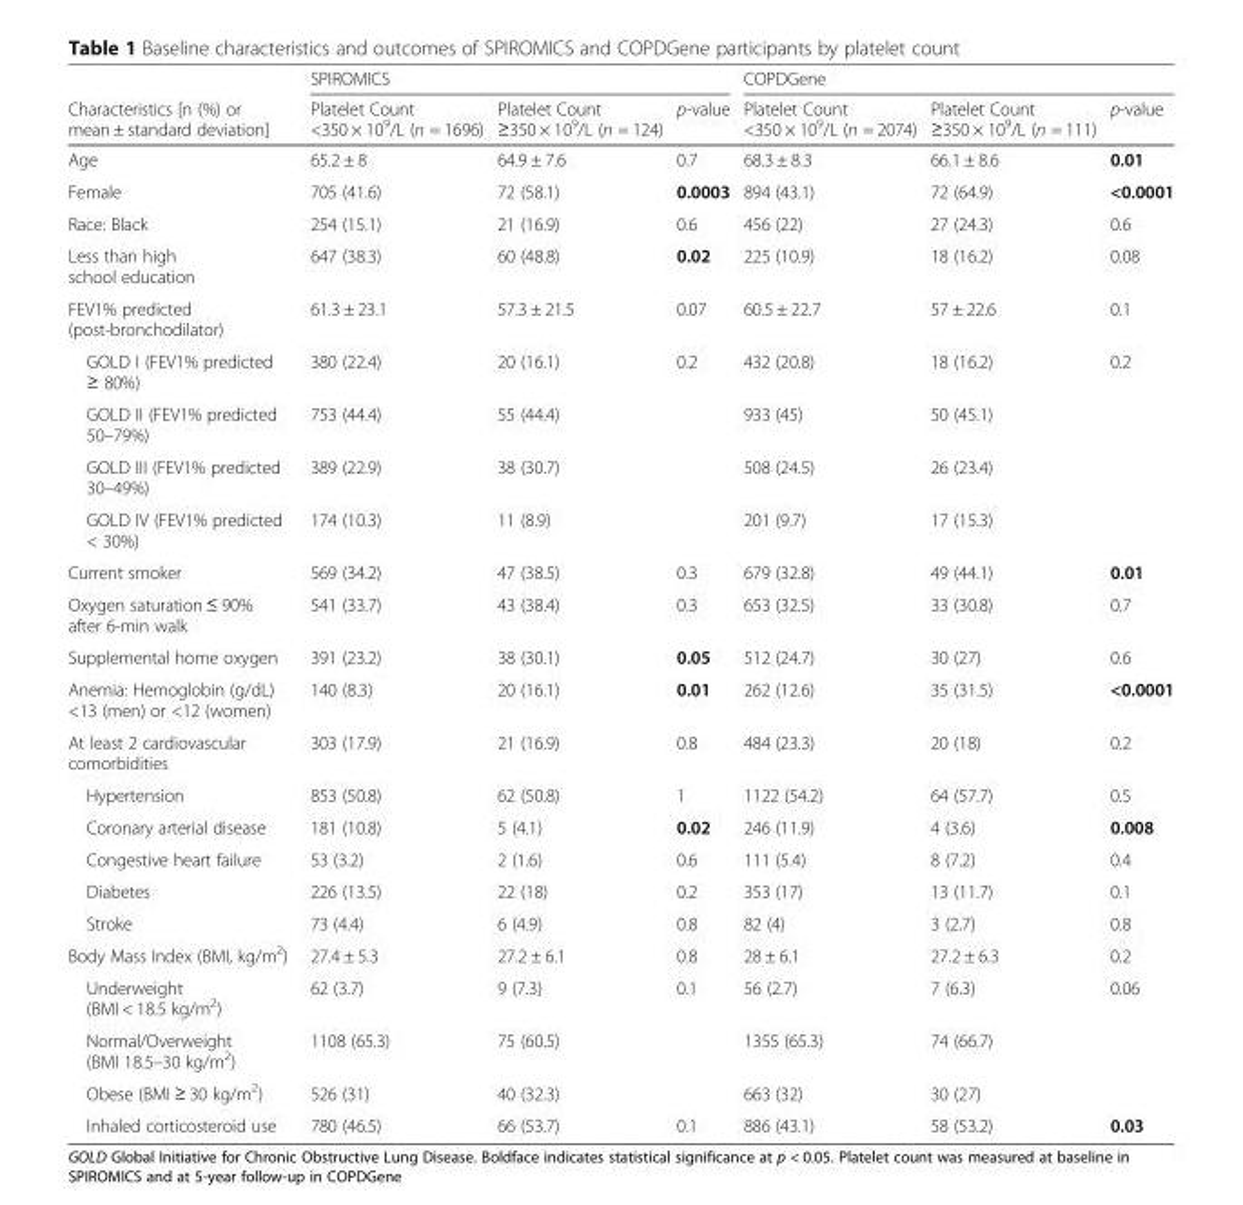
<table><thead><tr><td rowspan="2">Characteristics [n (%) or mean ± standard deviation]</td><td colspan="3">SPIROMICS</td><td colspan="3">COPDGene</td></tr><tr><td>Platelet Count &lt;350 × 10<sup>9</sup>/L (n = 1696)</td><td>Platelet Count ≥350 × 10<sup>9</sup>/L (n = 124)</td><td>p-value</td><td>Platelet Count &lt;350 × 10<sup>9</sup>/L (n = 2074)</td><td>Platelet Count ≥350 × 10<sup>9</sup>/L (n = 111)</td><td>p-value</td></tr></thead><tbody><tr><td>Age</td><td>65.2 ± 8</td><td>64.9 ± 7.6</td><td>0.7</td><td>68.3 ± 8.3</td><td>66.1 ± 8.6</td><td>0.01</td></tr><tr><td>Female</td><td>705 (41.6)</td><td>72 (58.1)</td><td>0.0003</td><td>894 (43.1)</td><td>72 (64.9)</td><td>&lt;0.0001</td></tr><tr><td>Race: Black</td><td>254 (15.1)</td><td>21 (16.9)</td><td>0.6</td><td>456 (22)</td><td>27 (24.3)</td><td>0.6</td></tr><tr><td>Less than high school education</td><td>647 (38.3)</td><td>60 (48.8)</td><td>0.02</td><td>225 (10.9)</td><td>18 (16.2)</td><td>0.08</td></tr><tr><td>FEV1% predicted (post-bronchodilator)</td><td>61.3 ± 23.1</td><td>57.3 ± 21.5</td><td>0.07</td><td>60.5 ± 22.7</td><td>57 ± 22.6</td><td>0.1</td></tr><tr><td>GOLD I (FEV1% predicted ≥ 80%)</td><td>380 (22.4)</td><td>20 (16.1)</td><td rowspan="4">0.2</td><td>432 (20.8)</td><td>18 (16.2)</td><td rowspan="4">0.2</td></tr><tr><td>GOLD II (FEV1% predicted 50–79%)</td><td>753 (44.4)</td><td>55 (44.4)</td><td>933 (45)</td><td>50 (45.1)</td></tr><tr><td>GOLD III (FEV1% predicted 30–49%)</td><td>389 (22.9)</td><td>38 (30.7)</td><td>508 (24.5)</td><td>26 (23.4)</td></tr><tr><td>GOLD IV (FEV1% predicted &lt; 30%)</td><td>174 (10.3)</td><td>11 (8.9)</td><td>201 (9.7)</td><td>17 (15.3)</td></tr><tr><td>Current smoker</td><td>569 (34.2)</td><td>47 (38.5)</td><td>0.3</td><td>679 (32.8)</td><td>49 (44.1)</td><td>0.01</td></tr><tr><td>Oxygen saturation ≤ 90% after 6-min walk</td><td>541 (33.7)</td><td>43 (38.4)</td><td>0.3</td><td>653 (32.5)</td><td>33 (30.8)</td><td>0.7</td></tr><tr><td>Supplemental home oxygen</td><td>391 (23.2)</td><td>38 (30.1)</td><td>0.05</td><td>512 (24.7)</td><td>30 (27)</td><td>0.6</td></tr><tr><td>Anemia: Hemoglobin (g/dL) &lt;13 (men) or &lt;12 (women)</td><td>140 (8.3)</td><td>20 (16.1)</td><td>0.01</td><td>262 (12.6)</td><td>35 (31.5)</td><td>&lt;0.0001</td></tr><tr><td>At least 2 cardiovascular comorbidities</td><td>303 (17.9)</td><td>21 (16.9)</td><td>0.8</td><td>484 (23.3)</td><td>20 (18)</td><td>0.2</td></tr><tr><td>Hypertension</td><td>853 (50.8)</td><td>62 (50.8)</td><td>1</td><td>1122 (54.2)</td><td>64 (57.7)</td><td>0.5</td></tr><tr><td>Coronary arterial disease</td><td>181 (10.8)</td><td>5 (4.1)</td><td>0.02</td><td>246 (11.9)</td><td>4 (3.6)</td><td>0.008</td></tr><tr><td>Congestive heart failure</td><td>53 (3.2)</td><td>2 (1.6)</td><td>0.6</td><td>111 (5.4)</td><td>8 (7.2)</td><td>0.4</td></tr><tr><td>Diabetes</td><td>226 (13.5)</td><td>22 (18)</td><td>0.2</td><td>353 (17)</td><td>13 (11.7)</td><td>0.1</td></tr><tr><td>Stroke</td><td>73 (4.4)</td><td>6 (4.9)</td><td>0.8</td><td>82 (4)</td><td>3 (2.7)</td><td>0.8</td></tr><tr><td>Body Mass Index (BMI, kg/m<sup>2</sup>)</td><td>27.4 ± 5.3</td><td>27.2 ± 6.1</td><td>0.8</td><td>28 ± 6.1</td><td>27.2 ± 6.3</td><td>0.2</td></tr><tr><td>Underweight (BMI &lt; 18.5 kg/m<sup>2</sup>)</td><td>62 (3.7)</td><td>9 (7.3)</td><td rowspan="3">0.1</td><td>56 (2.7)</td><td>7 (6.3)</td><td rowspan="3">0.06</td></tr><tr><td>Normal/Overweight (BMI 18.5–30 kg/m<sup>2</sup>)</td><td>1108 (65.3)</td><td>75 (60.5)</td><td>1355 (65.3)</td><td>74 (66.7)</td></tr><tr><td>Obese (BMI ≥ 30 kg/m<sup>2</sup>)</td><td>526 (31)</td><td>40 (32.3)</td><td>663 (32)</td><td>30 (27)</td></tr><tr><td>Inhaled corticosteroid use</td><td>780 (46.5)</td><td>66 (53.7)</td><td>0.1</td><td>886 (43.1)</td><td>58 (53.2)</td><td>0.03</td></tr></tbody></table>